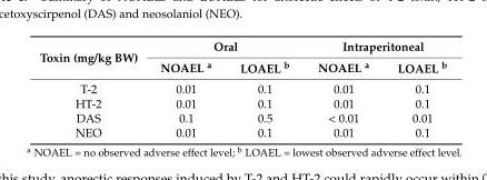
<table><thead><tr><td rowspan="2">Toxin (mg/kg BW)</td><td colspan="2">Oral</td><td colspan="2">Intraperitoneal</td></tr><tr><td>NOAEL <sup>a</sup></td><td>LOAEL <sup>b</sup></td><td>NOAEL <sup>a</sup></td><td>LOAEL <sup>b</sup></td></tr></thead><tbody><tr><td>T-2</td><td>0.01</td><td>0.1</td><td>0.01</td><td>0.1</td></tr><tr><td>HT-2</td><td>0.01</td><td>0.1</td><td>0.01</td><td>0.1</td></tr><tr><td>DAS</td><td>0.1</td><td>0.5</td><td>&lt; 0.01</td><td>0.01</td></tr><tr><td>NEO</td><td>0.01</td><td>0.1</td><td>0.01</td><td>0.1</td></tr></tbody></table>